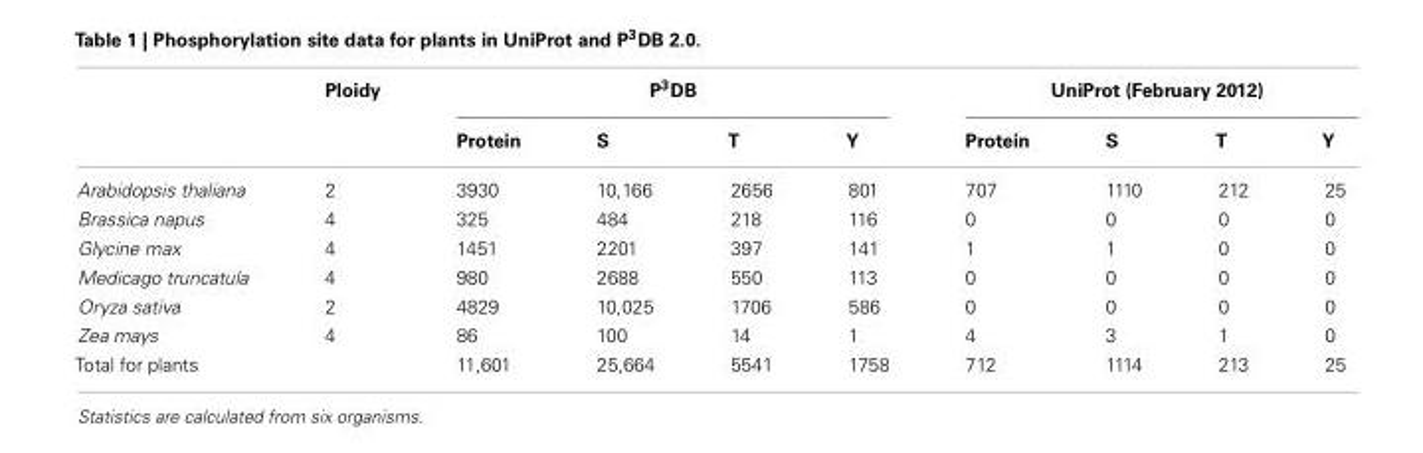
<table><thead><tr><td rowspan="2"></td><td rowspan="2">Ploidy</td><td colspan="4">P<sup>3</sup>DB</td><td colspan="4">UniProt (February 2012)</td></tr><tr><td>Protein</td><td>S</td><td>T</td><td>Y</td><td>Protein</td><td>S</td><td>T</td><td>Y</td></tr></thead><tbody><tr><td>Arabidopsis thaliana</td><td>2</td><td>3930</td><td>10,166</td><td>2656</td><td>801</td><td>707</td><td>1110</td><td>212</td><td>25</td></tr><tr><td>Brassica napus</td><td>4</td><td>325</td><td>484</td><td>218</td><td>116</td><td>0</td><td>0</td><td>0</td><td>0</td></tr><tr><td>Glycine max</td><td>4</td><td>1451</td><td>2201</td><td>397</td><td>141</td><td>1</td><td>1</td><td>0</td><td>0</td></tr><tr><td>Medicago truncatula</td><td>4</td><td>980</td><td>2688</td><td>550</td><td>113</td><td>0</td><td>0</td><td>0</td><td>0</td></tr><tr><td>Oryza sativa</td><td>2</td><td>4829</td><td>10,025</td><td>1706</td><td>586</td><td>0</td><td>0</td><td>0</td><td>0</td></tr><tr><td>Zea mays</td><td>4</td><td>86</td><td>100</td><td>14</td><td>1</td><td>4</td><td>3</td><td>1</td><td>0</td></tr><tr><td>Total for plants</td><td></td><td>11,601</td><td>25,664</td><td>5541</td><td>1758</td><td>712</td><td>1114</td><td>213</td><td>25</td></tr></tbody></table>